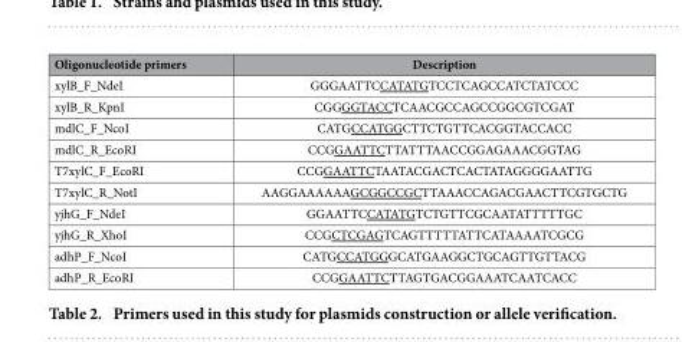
<table><thead><tr><td>Oligonucleotide primers</td><td>Description</td></tr></thead><tbody><tr><td>xylB_F_NdeI</td><td>GGGAATTCCATATGTCCTCAGCCATCTATCCC</td></tr><tr><td>xylB_R_KpnI</td><td>CGGGGTACCTCAACGCCAGCCGGCGTCGAT</td></tr><tr><td>mdlC_F_NcoI</td><td>CATGCCATGGCTTCTGTTCACGGTACCACC</td></tr><tr><td>mdlC_R_EcoRI</td><td>CCGGAATTCTTATTTAACCGGAGAAACGGTAG</td></tr><tr><td>T7xylC_F_EcoRI</td><td>CCGGAATTCTAATACGACTCACTATAGGGGAATTG</td></tr><tr><td>T7xylC_R_NotI</td><td>AAGGAAAAAAGCGGCCGCTTAAACCAGACGAACTTCGTGCTG</td></tr><tr><td>yjhG_F_NdeI</td><td>GGAATTCCATATGTCTGTTCGCAATATTTTTGC</td></tr><tr><td>yjhG_R_XhoI</td><td>CCGCTCGAGTCAGTTTTTATTCATAAAATCGCG</td></tr><tr><td>adhP_F_NcoI</td><td>CATGCCATGGGCATGAAGGCTGCAGTTGTTACG</td></tr><tr><td>adhP_R_EcoRI</td><td>CCGGAATTCTTAGTGACGGAAATCAATCACC</td></tr></tbody></table>